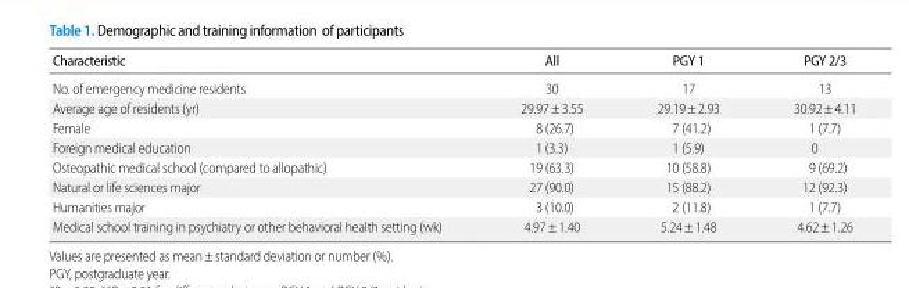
<table><thead><tr><td>Characteristic</td><td>All</td><td>PGY 1</td><td>PGY 2/3</td></tr></thead><tbody><tr><td>No. of emergency medicine residents</td><td>30</td><td>17</td><td>13</td></tr><tr><td>Average age of residents (yr)</td><td>29.97±3.55</td><td>29.19±2.93</td><td>30.92±4.11</td></tr><tr><td>Female</td><td>8 (26.7)</td><td>7 (41.2)</td><td>1 (7.7)</td></tr><tr><td>Foreign medical education</td><td>1 (3.3)</td><td>1 (5.9)</td><td>0</td></tr><tr><td>Osteopathic medical school (compared to allopathic)</td><td>19 (63.3)</td><td>10 (58.8)</td><td>9 (69.2)</td></tr><tr><td>Natural or life sciences major</td><td>27 (90.0)</td><td>15 (88.2)</td><td>12 (92.3)</td></tr><tr><td>Humanities major</td><td>3 (10.0)</td><td>2 (11.8)</td><td>1 (7.7)</td></tr><tr><td>Medical school training in psychiatry or other behavioral health setting (wk)</td><td>4.97±1.40</td><td>5.24±1.48</td><td>4.62±1.26</td></tr></tbody></table>